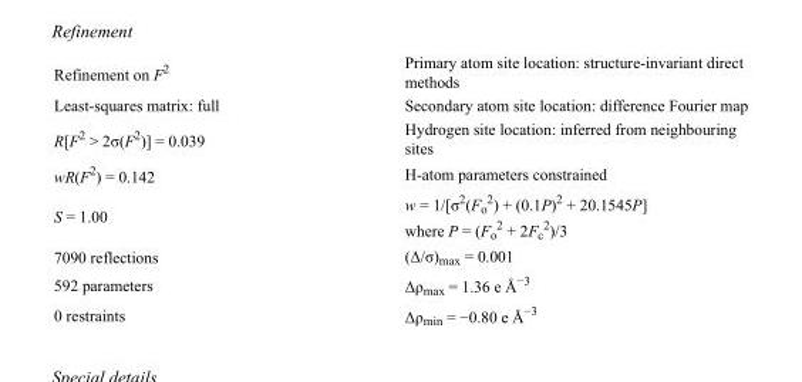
<table><tbody><tr><td>Refinement on F<sup>2</sup></td><td>Primary atom site location: structure-invariant direct methods</td></tr><tr><td>Least-squares matrix: full</td><td>Secondary atom site location: difference Fourier map</td></tr><tr><td>R[F<sup>2</sup> &gt; 2σ(F<sup>2</sup>)] = 0.039</td><td>Hydrogen site location: inferred from neighbouring sites</td></tr><tr><td>wR(F<sup>2</sup>) = 0.142</td><td>H-atom parameters constrained</td></tr><tr><td>S = 1.00</td><td>w = 1/[σ<sup>2</sup>(F<sub>o</sub> <sup>2</sup>) + (0.1P)<sup>2</sup> + 20.1545P] where P = (F<sub>o</sub> <sup>2</sup> + 2F<sub>c</sub> <sup>2</sup>)/3</td></tr><tr><td>7090 reflections</td><td>(Δ/σ)<sub>max</sub> = 0.001</td></tr><tr><td>592 parameters</td><td>Δρ<sub>max</sub> = 1.36 e Å<sup>−3</sup></td></tr><tr><td>0 restraints</td><td>Δρ<sub>min</sub> = −0.80 e Å<sup>−3</sup></td></tr></tbody></table>